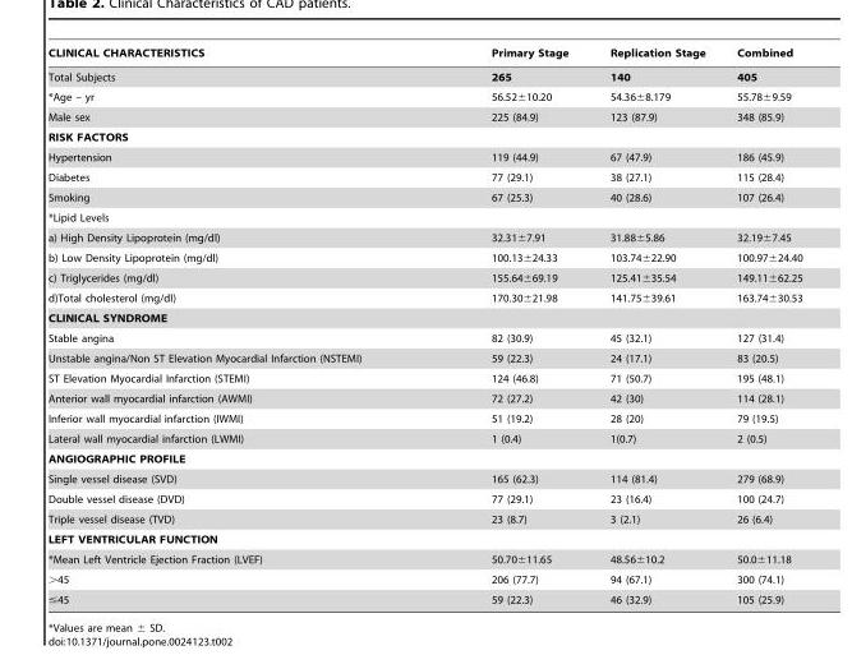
<table><thead><tr><td>CLINICAL CHARACTERISTICS</td><td>Primary Stage</td><td>Replication Stage</td><td>Combined</td></tr></thead><tbody><tr><td>Total Subjects</td><td>265</td><td>140</td><td>405</td></tr><tr><td>*Age – yr</td><td>56.52±10.20</td><td>54.36±8.179</td><td>55.78±9.59</td></tr><tr><td>Male sex</td><td>225 (84.9)</td><td>123 (87.9)</td><td>348 (85.9)</td></tr><tr><td colspan="4">RISK FACTORS</td></tr><tr><td>Hypertension</td><td>119 (44.9)</td><td>67 (47.9)</td><td>186 (45.9)</td></tr><tr><td>Diabetes</td><td>77 (29.1)</td><td>38 (27.1)</td><td>115 (28.4)</td></tr><tr><td>Smoking</td><td>67 (25.3)</td><td>40 (28.6)</td><td>107 (26.4)</td></tr><tr><td colspan="4">*Lipid Levels</td></tr><tr><td>a) High Density Lipoprotein (mg/dl)</td><td>32.31±7.91</td><td>31.88±5.86</td><td>32.19±7.45</td></tr><tr><td>b) Low Density Lipoprotein (mg/dl)</td><td>100.13±24.33</td><td>103.74±22.90</td><td>100.97±24.40</td></tr><tr><td>c) Triglycerides (mg/dl)</td><td>155.64±69.19</td><td>125.41±35.54</td><td>149.11±62.25</td></tr><tr><td>d)Total cholesterol (mg/dl)</td><td>170.30±21.98</td><td>141.75±39.61</td><td>163.74±30.53</td></tr><tr><td colspan="4">CLINICAL SYNDROME</td></tr><tr><td>Stable angina</td><td>82 (30.9)</td><td>45 (32.1)</td><td>127 (31.4)</td></tr><tr><td>Unstable angina/Non ST Elevation Myocardial Infarction (NSTEMI)</td><td>59 (22.3)</td><td>24 (17.1)</td><td>83 (20.5)</td></tr><tr><td>ST Elevation Myocardial Infarction (STEMI)</td><td>124 (46.8)</td><td>71 (50.7)</td><td>195 (48.1)</td></tr><tr><td>Anterior wall myocardial infarction (AWMI)</td><td>72 (27.2)</td><td>42 (30)</td><td>114 (28.1)</td></tr><tr><td>Inferior wall myocardial infarction (IWMI)</td><td>51 (19.2)</td><td>28 (20)</td><td>79 (19.5)</td></tr><tr><td>Lateral wall myocardial infarction (LWMI)</td><td>1 (0.4)</td><td>1(0.7)</td><td>2 (0.5)</td></tr><tr><td colspan="4">ANGIOGRAPHIC PROFILE</td></tr><tr><td>Single vessel disease (SVD)</td><td>165 (62.3)</td><td>114 (81.4)</td><td>279 (68.9)</td></tr><tr><td>Double vessel disease (DVD)</td><td>77 (29.1)</td><td>23 (16.4)</td><td>100 (24.7)</td></tr><tr><td>Triple vessel disease (TVD)</td><td>23 (8.7)</td><td>3 (2.1)</td><td>26 (6.4)</td></tr><tr><td colspan="4">LEFT VENTRICULAR FUNCTION</td></tr><tr><td>*Mean Left Ventricle Ejection Fraction (LVEF)</td><td>50.70±11.65</td><td>48.56±10.2</td><td>50.0±11.18</td></tr><tr><td>&gt;45</td><td>206 (77.7)</td><td>94 (67.1)</td><td>300 (74.1)</td></tr><tr><td>≤45</td><td>59 (22.3)</td><td>46 (32.9)</td><td>105 (25.9)</td></tr></tbody></table>